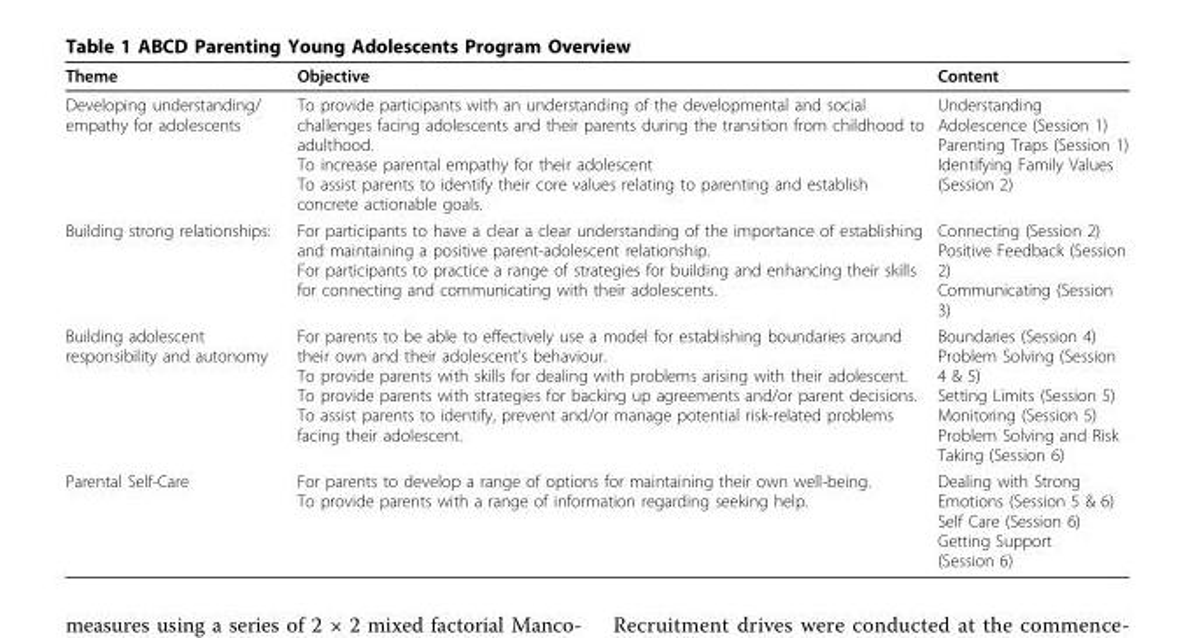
<table><thead><tr><td>Theme</td><td>Objective</td><td>Content</td></tr></thead><tbody><tr><td>Developing understanding/ empathy for adolescents</td><td>To provide participants with an understanding of the developmental and social challenges facing adolescents and their parents during the transition from childhood to adulthood. To increase parental empathy for their adolescent To assist parents to identify their core values relating to parenting and establish concrete actionable goals.</td><td>Understanding Adolescence (Session 1) Parenting Traps (Session 1) Identifying Family Values (Session 2)</td></tr><tr><td>Building strong relationships:</td><td>For participants to have a clear a clear understanding of the importance of establishing and maintaining a positive parent-adolescent relationship. For participants to practice a range of strategies for building and enhancing their skills for connecting and communicating with their adolescents.</td><td>Connecting (Session 2) Positive Feedback (Session 2) Communicating (Session 3)</td></tr><tr><td>Building adolescent responsibility and autonomy</td><td>For parents to be able to effectively use a model for establishing boundaries around their own and their adolescent’s behaviour. To provide parents with skills for dealing with problems arising with their adolescent. To provide parents with strategies for backing up agreements and/or parent decisions. To assist parents to identify, prevent and/or manage potential risk-related problems facing their adolescent.</td><td>Boundaries (Session 4) Problem Solving (Session 4 &amp; 5) Setting Limits (Session 5) Monitoring (Session 5) Problem Solving and Risk Taking (Session 6)</td></tr><tr><td>Parental Self-Care</td><td>For parents to develop a range of options for maintaining their own well-being. To provide parents with a range of information regarding seeking help.</td><td>Dealing with Strong Emotions (Session 5 &amp; 6) Self Care (Session 6) Getting Support (Session 6)</td></tr></tbody></table>